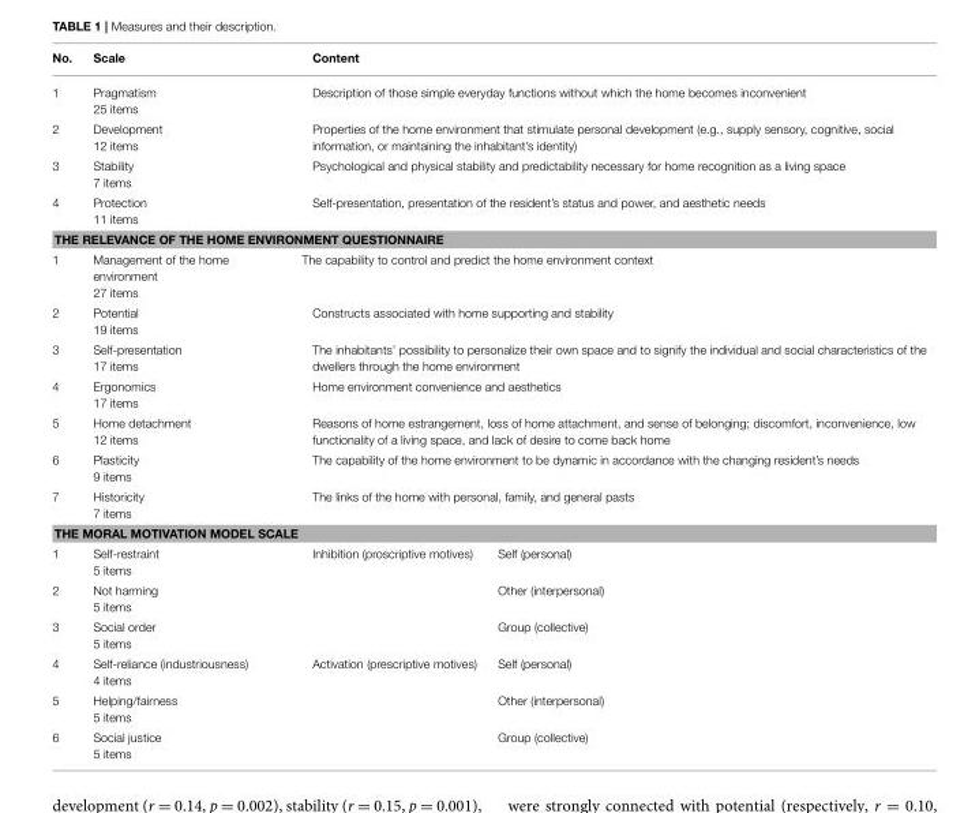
<table><thead><tr><td>No.</td><td>Scale</td><td colspan="2">Content</td></tr></thead><tbody><tr><td>1</td><td>Pragmatism 25 items</td><td colspan="2">Description of those simple everyday functions without which the home becomes inconvenient</td></tr><tr><td>2</td><td>Development 12 items</td><td colspan="2">Properties of the home environment that stimulate personal development (e.g., supply sensory, cognitive, social information, or maintaining the inhabitant’s identity)</td></tr><tr><td>3</td><td>Stability 7 items</td><td colspan="2">Psychological and physical stability and predictability necessary for home recognition as a living space</td></tr><tr><td>4</td><td>Protection 11 items</td><td colspan="2">Self-presentation, presentation of the resident’s status and power, and aesthetic needs</td></tr><tr><td colspan="4">THE RELEVANCE OF THE HOME ENVIRONMENT QUESTIONNAIRE</td></tr><tr><td>1</td><td>Management of the home environment 27 items</td><td colspan="2">The capability to control and predict the home environment context</td></tr><tr><td>2</td><td>Potential 19 items</td><td colspan="2">Constructs associated with home supporting and stability</td></tr><tr><td>3</td><td>Self-presentation 17 items</td><td colspan="2">The inhabitants’ possibility to personalize their own space and to signify the individual and social characteristics of the dwellers through the home environment</td></tr><tr><td>4</td><td>Ergonomics 17 items</td><td colspan="2">Home environment convenience and aesthetics</td></tr><tr><td>5</td><td>Home detachment 12 items</td><td colspan="2">Reasons of home estrangement, loss of home attachment, and sense of belonging; discomfort, inconvenience, low functionality of a living space, and lack of desire to come back home</td></tr><tr><td>6</td><td>Plasticity 9 items</td><td colspan="2">The capability of the home environment to be dynamic in accordance with the changing resident’s needs</td></tr><tr><td>7</td><td>Historicity 7 items</td><td colspan="2">The links of the home with personal, family, and general pasts</td></tr><tr><td colspan="4">THE MORAL MOTIVATION MODEL SCALE</td></tr><tr><td>1</td><td>Self-restraint 5 items</td><td>Inhibition (proscriptive motives)</td><td>Self (personal)</td></tr><tr><td>2</td><td>Not harming 5 items</td><td></td><td>Other (interpersonal)</td></tr><tr><td>3</td><td>Social order 5 items</td><td></td><td>Group (collective)</td></tr><tr><td>4</td><td>Self-reliance (industriousness) 4 items</td><td>Activation (prescriptive motives)</td><td>Self (personal)</td></tr><tr><td>5</td><td>Helping/fairness 5 items</td><td></td><td>Other (interpersonal)</td></tr><tr><td>6</td><td>Social justice 5 items</td><td></td><td>Group (collective)</td></tr></tbody></table>